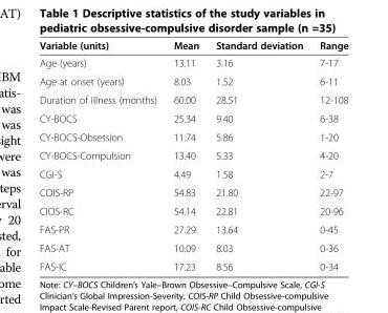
<table><thead><tr><td>Variable (units)</td><td>Mean</td><td>Standard deviation</td><td>Range</td></tr></thead><tbody><tr><td>Age (years)</td><td>13.11</td><td>3.16</td><td>7-17</td></tr><tr><td>Age at onset (years)</td><td>8.03</td><td>1.52</td><td>6-11</td></tr><tr><td>Duration of illness (months)</td><td>60.00</td><td>28.51</td><td>12-108</td></tr><tr><td>CY-BOCS</td><td>25.34</td><td>9.40</td><td>6-38</td></tr><tr><td>CY-BOCS-Obsession</td><td>11.74</td><td>5.86</td><td>1-20</td></tr><tr><td>CY-BOCS-Compulsion</td><td>13.40</td><td>5.33</td><td>4-20</td></tr><tr><td>CGI-S</td><td>4.49</td><td>1.58</td><td>2-7</td></tr><tr><td>COIS-RP</td><td>54.83</td><td>21.80</td><td>22-97</td></tr><tr><td>CIOS-RC</td><td>54.14</td><td>22.81</td><td>20-96</td></tr><tr><td>FAS-PR</td><td>27.29</td><td>13.64</td><td>0-45</td></tr><tr><td>FAS-AT</td><td>10.09</td><td>8.03</td><td>0-36</td></tr><tr><td>FAS-IC</td><td>17.23</td><td>8.56</td><td>0-34</td></tr></tbody></table>